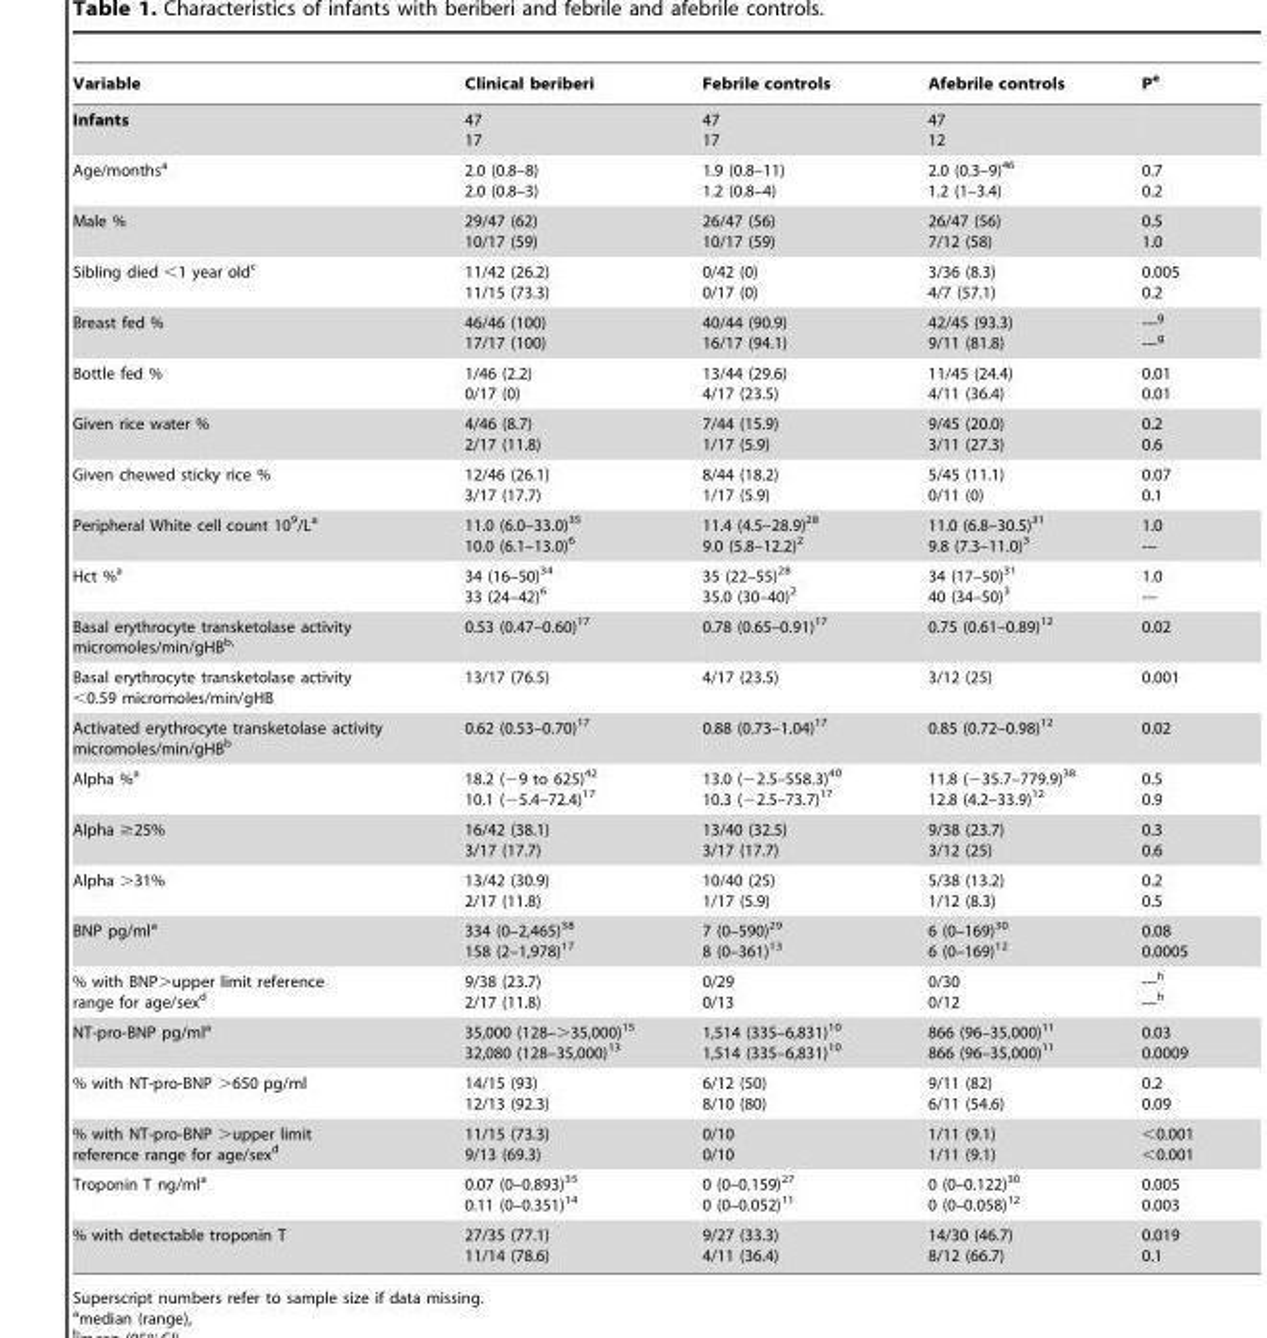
<table><thead><tr><td>Variable</td><td>Clinical beriberi</td><td>Febrile controls</td><td>Afebrile controls</td><td>P<sup>e</sup></td></tr></thead><tbody><tr><td>Infants</td><td>47 17</td><td>47 17</td><td>47 12</td><td></td></tr><tr><td>Age/months<sup>a</sup></td><td>2.0 (0.8–8) 2.0 (0.8–3)</td><td>1.9 (0.8–11) 1.2 (0.8–4)</td><td>2.0 (0.3–9)<sup>46</sup> 1.2 (1–3.4)</td><td>0.7 0.2</td></tr><tr><td>Male %</td><td>29/47 (62) 10/17 (59)</td><td>26/47 (56) 10/17 (59)</td><td>26/47 (56) 7/12 (58)</td><td>0.5 1.0</td></tr><tr><td>Sibling died &lt;1 year old<sup>c</sup></td><td>11/42 (26.2) 11/15 (73.3)</td><td>0/42 (0) 0/17 (0)</td><td>3/36 (8.3) 4/7 (57.1)</td><td>0.005 0.2</td></tr><tr><td>Breast fed %</td><td>46/46 (100) 17/17 (100)</td><td>40/44 (90.9) 16/17 (94.1)</td><td>42/45 (93.3) 9/11 (81.8)</td><td>---g ---g</td></tr><tr><td>Bottle fed %</td><td>1/46 (2.2) 0/17 (0)</td><td>13/44 (29.6) 4/17 (23.5)</td><td>11/45 (24.4) 4/11 (36.4)</td><td>0.01 0.01</td></tr><tr><td>Given rice water %</td><td>4/46 (8.7) 2/17 (11.8)</td><td>7/44 (15.9) 1/17 (5.9)</td><td>9/45 (20.0) 3/11 (27.3)</td><td>0.2 0.6</td></tr><tr><td>Given chewed sticky rice %</td><td>12/46 (26.1) 3/17 (17.7)</td><td>8/44 (18.2) 1/17 (5.9)</td><td>5/45 (11.1) 0/11 (0)</td><td>0.07 0.1</td></tr><tr><td>Peripheral White cell count 10<sup>9</sup>/L<sup>a</sup></td><td>11.0 (6.0–33.0)<sup>35</sup> 10.0 (6.1–13.0)<sup>6</sup></td><td>11.4 (4.5–28.9)<sup>28</sup> 9.0 (5.8–12.2)<sup>2</sup></td><td>11.0 (6.8–30.5)<sup>31</sup> 9.8 (7.3–11.0)<sup>3</sup></td><td>1.0 ---</td></tr><tr><td>Hct %<sup>a</sup></td><td>34 (16–50)<sup>34</sup> 33 (24–42)<sup>6</sup></td><td>35 (22–55)<sup>28</sup> 35.0 (30–40)<sup>2</sup></td><td>34 (17–50)<sup>31</sup> 40 (34–50)<sup>3</sup></td><td>1.0 ---</td></tr><tr><td>Basal erythrocyte transketolase activity micromoles/min/gHBb,</td><td>0.53 (0.47–0.60)<sup>17</sup></td><td>0.78 (0.65–0.91)<sup>17</sup></td><td>0.75 (0.61–0.89)<sup>12</sup></td><td>0.02</td></tr><tr><td>Basal erythrocyte transketolase activity &lt;0.59 micromoles/min/gHB</td><td>13/17 (76.5)</td><td>4/17 (23.5)</td><td>3/12 (25)</td><td>0.001</td></tr><tr><td>Activated erythrocyte transketolase activity micromoles/min/gHB<sup>b</sup></td><td>0.62 (0.53–0.70)<sup>17</sup></td><td>0.88 (0.73–1.04)<sup>17</sup></td><td>0.85 (0.72–0.98)<sup>12</sup></td><td>0.02</td></tr><tr><td>Alpha %<sup>a</sup></td><td>18.2 (−9 to 625)<sup>42</sup> 10.1 (−5.4–72.4)<sup>17</sup></td><td>13.0 (−2.5–558.3)<sup>40</sup> 10.3 (−2.5–73.7)<sup>17</sup></td><td>11.8 (−35.7–779.9)<sup>38</sup> 12.8 (4.2–33.9)<sup>12</sup></td><td>0.5 0.9</td></tr><tr><td>Alpha ≥25%</td><td>16/42 (38.1) 3/17 (17.7)</td><td>13/40 (32.5) 3/17 (17.7)</td><td>9/38 (23.7) 3/12 (25)</td><td>0.3 0.6</td></tr><tr><td>Alpha &gt;31%</td><td>13/42 (30.9) 2/17 (11.8)</td><td>10/40 (25) 1/17 (5.9)</td><td>5/38 (13.2) 1/12 (8.3)</td><td>0.2 0.5</td></tr><tr><td>BNP pg/ml<sup>a</sup></td><td>334 (0–2,465)<sup>38</sup> 158 (2–1,978)<sup>17</sup></td><td>7 (0–590)<sup>29</sup> 8 (0–361)<sup>13</sup></td><td>6 (0–169)<sup>30</sup> 6 (0–169)<sup>12</sup></td><td>0.08 0.0005</td></tr><tr><td>% with BNP&gt;upper limit reference range for age/sex<sup>d</sup></td><td>9/38 (23.7) 2/17 (11.8)</td><td>0/29 0/13</td><td>0/30 0/12</td><td>---h ---h</td></tr><tr><td>NT-pro-BNP pg/ml<sup>a</sup></td><td>35,000 (128–&gt;35,000)<sup>15</sup> 32,080 (128–35,000)<sup>13</sup></td><td>1,514 (335–6,831)<sup>10</sup> 1,514 (335–6,831)<sup>10</sup></td><td>866 (96–35,000)<sup>11</sup> 866 (96–35,000)<sup>11</sup></td><td>0.03 0.0009</td></tr><tr><td>% with NT-pro-BNP &gt;650 pg/ml</td><td>14/15 (93) 12/13 (92.3)</td><td>6/12 (50) 8/10 (80)</td><td>9/11 (82) 6/11 (54.6)</td><td>0.2 0.09</td></tr><tr><td>% with NT-pro-BNP &gt;upper limit reference range for age/sex<sup>d</sup></td><td>11/15 (73.3) 9/13 (69.3)</td><td>0/10 0/10</td><td>1/11 (9.1) 1/11 (9.1)</td><td>&lt;0.001 &lt;0.001</td></tr><tr><td>Troponin T ng/ml<sup>a</sup></td><td>0.07 (0–0.893)<sup>35</sup> 0.11 (0–0.351)<sup>14</sup></td><td>0 (0–0.159)<sup>27</sup> 0 (0–0.052)<sup>11</sup></td><td>0 (0–0.122)<sup>30</sup> 0 (0–0.058)<sup>12</sup></td><td>0.005 0.003</td></tr><tr><td>% with detectable troponin T</td><td>27/35 (77.1) 11/14 (78.6)</td><td>9/27 (33.3) 4/11 (36.4)</td><td>14/30 (46.7) 8/12 (66.7)</td><td>0.019 0.1</td></tr></tbody></table>